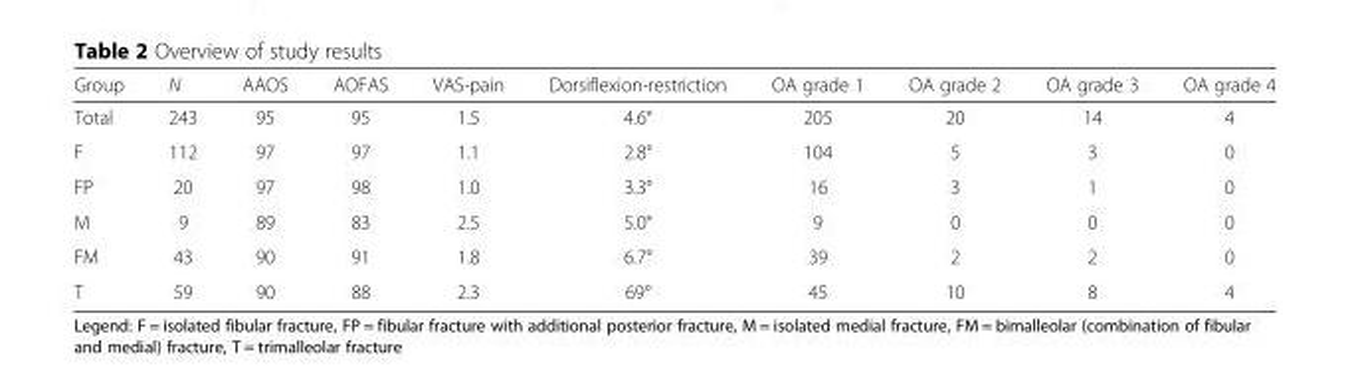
<table><thead><tr><td>Group</td><td>N</td><td>AAOS</td><td>AOFAS</td><td>VAS-pain</td><td>Dorsiflexion-restriction</td><td>OA grade 1</td><td>OA grade 2</td><td>OA grade 3</td><td>OA grade 4</td></tr></thead><tbody><tr><td>Total</td><td>243</td><td>95</td><td>95</td><td>1.5</td><td>4.6°</td><td>205</td><td>20</td><td>14</td><td>4</td></tr><tr><td>F</td><td>112</td><td>97</td><td>97</td><td>1.1</td><td>2.8°</td><td>104</td><td>5</td><td>3</td><td>0</td></tr><tr><td>FP</td><td>20</td><td>97</td><td>98</td><td>1.0</td><td>3.3°</td><td>16</td><td>3</td><td>1</td><td>0</td></tr><tr><td>M</td><td>9</td><td>89</td><td>83</td><td>2.5</td><td>5.0°</td><td>9</td><td>0</td><td>0</td><td>0</td></tr><tr><td>FM</td><td>43</td><td>90</td><td>91</td><td>1.8</td><td>6.7°</td><td>39</td><td>2</td><td>2</td><td>0</td></tr><tr><td>T</td><td>59</td><td>90</td><td>88</td><td>2.3</td><td>69°</td><td>45</td><td>10</td><td>8</td><td>4</td></tr></tbody></table>